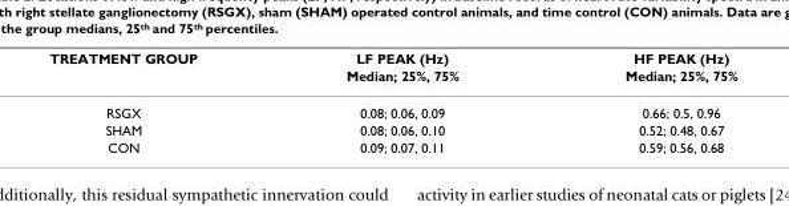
<table><thead><tr><td rowspan="2">TREATMENT GROUP</td><td rowspan="2">LF PEAK (Hz) Median; 25%, 75%</td><td rowspan="2">HF PEAK (Hz) Median; 25%, 75%</td></tr><tr></tr></thead><tbody><tr><td>RSGX</td><td>0.08; 0.06, 0.09</td><td>0.66; 0.5, 0.96</td></tr><tr><td>SHAM</td><td>0.08; 0.06, 0.10</td><td>0.52; 0.48, 0.67</td></tr><tr><td>CON</td><td>0.09; 0.07, 0.11</td><td>0.59; 0.56, 0.68</td></tr></tbody></table>